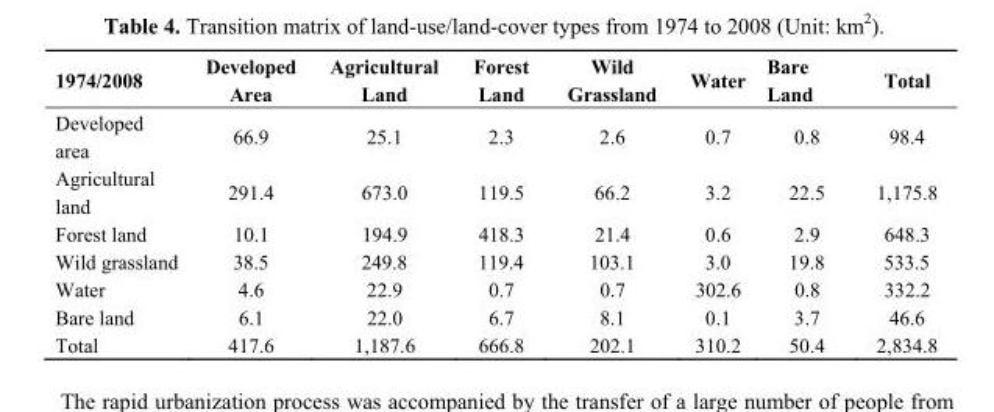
<table><thead><tr><td>1974/2008</td><td>Developed Area</td><td>Agricultural Land</td><td>Forest Land</td><td>Wild Grassland</td><td>Water</td><td>Bare Land</td><td>Total</td></tr></thead><tbody><tr><td>Developed area</td><td>66.9</td><td>25.1</td><td>2.3</td><td>2.6</td><td>0.7</td><td>0.8</td><td>98.4</td></tr><tr><td>Agricultural land</td><td>291.4</td><td>673.0</td><td>119.5</td><td>66.2</td><td>3.2</td><td>22.5</td><td>1,175.8</td></tr><tr><td>Forest land</td><td>10.1</td><td>194.9</td><td>418.3</td><td>21.4</td><td>0.6</td><td>2.9</td><td>648.3</td></tr><tr><td>Wild grassland</td><td>38.5</td><td>249.8</td><td>119.4</td><td>103.1</td><td>3.0</td><td>19.8</td><td>533.5</td></tr><tr><td>Water</td><td>4.6</td><td>22.9</td><td>0.7</td><td>0.7</td><td>302.6</td><td>0.8</td><td>332.2</td></tr><tr><td>Bare land</td><td>6.1</td><td>22.0</td><td>6.7</td><td>8.1</td><td>0.1</td><td>3.7</td><td>46.6</td></tr><tr><td>Total</td><td>417.6</td><td>1,187.6</td><td>666.8</td><td>202.1</td><td>310.2</td><td>50.4</td><td>2,834.8</td></tr></tbody></table>